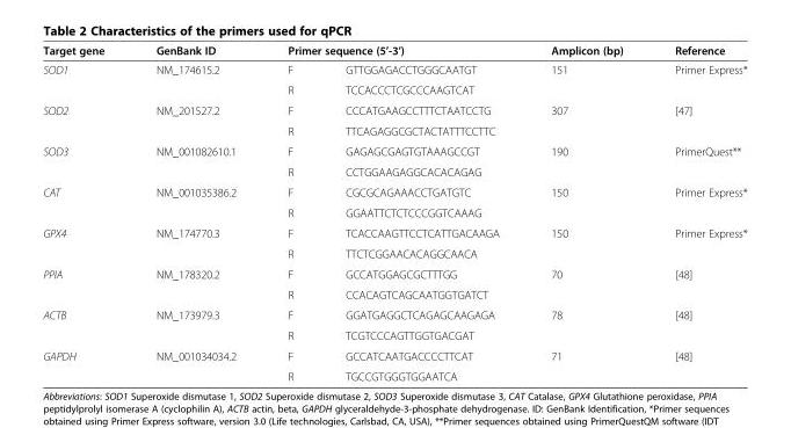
<table><thead><tr><td rowspan="2">Target gene SOD1</td><td rowspan="2">GenBank ID NM_174615.2</td><td colspan="2">Primer sequence (5’-3’)</td><td rowspan="2">Amplicon (bp) 151</td><td rowspan="2">Reference Primer Express*</td></tr><tr><td>F</td><td>GTTGGAGACCTGGGCAATGT</td></tr></thead><tbody><tr><td></td><td></td><td>R</td><td>TCCACCCTCGCCCAAGTCAT</td><td></td><td></td></tr><tr><td rowspan="2">SOD2</td><td>NM_201527.2</td><td>F</td><td>CCCATGAAGCCTTTCTAATCCTG</td><td>307</td><td rowspan="2">[47]</td></tr><tr><td></td><td>R</td><td>TTCAGAGGCGCTACTATTTCCTTC</td><td></td></tr><tr><td rowspan="2">SOD3</td><td>NM_001082610.1</td><td>F</td><td>GAGAGCGAGTGTAAAGCCGT</td><td>190</td><td>PrimerQuest**</td></tr><tr><td></td><td>R</td><td>CCTGGAAGAGGCACACAGAG</td><td></td><td></td></tr><tr><td rowspan="2">CAT</td><td>NM_001035386.2</td><td>F</td><td>CGCGCAGAAACCTGATGTC</td><td>150</td><td>Primer Express*</td></tr><tr><td></td><td>R</td><td>GGAATTCTCTCCCGGTCAAAG</td><td></td><td></td></tr><tr><td rowspan="2">GPX4</td><td>NM_174770.3</td><td>F</td><td>TCACCAAGTTCCTCATTGACAAGA</td><td>150</td><td>Primer Express*</td></tr><tr><td></td><td>R</td><td>TTCTCGGAACACAGGCAACA</td><td></td><td></td></tr><tr><td rowspan="2">PPIA</td><td>NM_178320.2</td><td>F</td><td>GCCATGGAGCGCTTTGG</td><td>70</td><td>[48]</td></tr><tr><td></td><td>R</td><td>CCACAGTCAGCAATGGTGATCT</td><td></td><td></td></tr><tr><td rowspan="2">ACTB</td><td>NM_173979.3</td><td>F</td><td>GGATGAGGCTCAGAGCAAGAGA</td><td>78</td><td>[48]</td></tr><tr><td></td><td>R</td><td>TCGTCCCAGTTGGTGACGAT</td><td></td><td></td></tr><tr><td rowspan="2">GAPDH</td><td>NM_001034034.2</td><td>F</td><td>GCCATCAATGACCCCTTCAT</td><td>71</td><td>[48]</td></tr><tr><td></td><td>R</td><td>TGCCGTGGGTGGAATCA</td><td></td><td></td></tr></tbody></table>